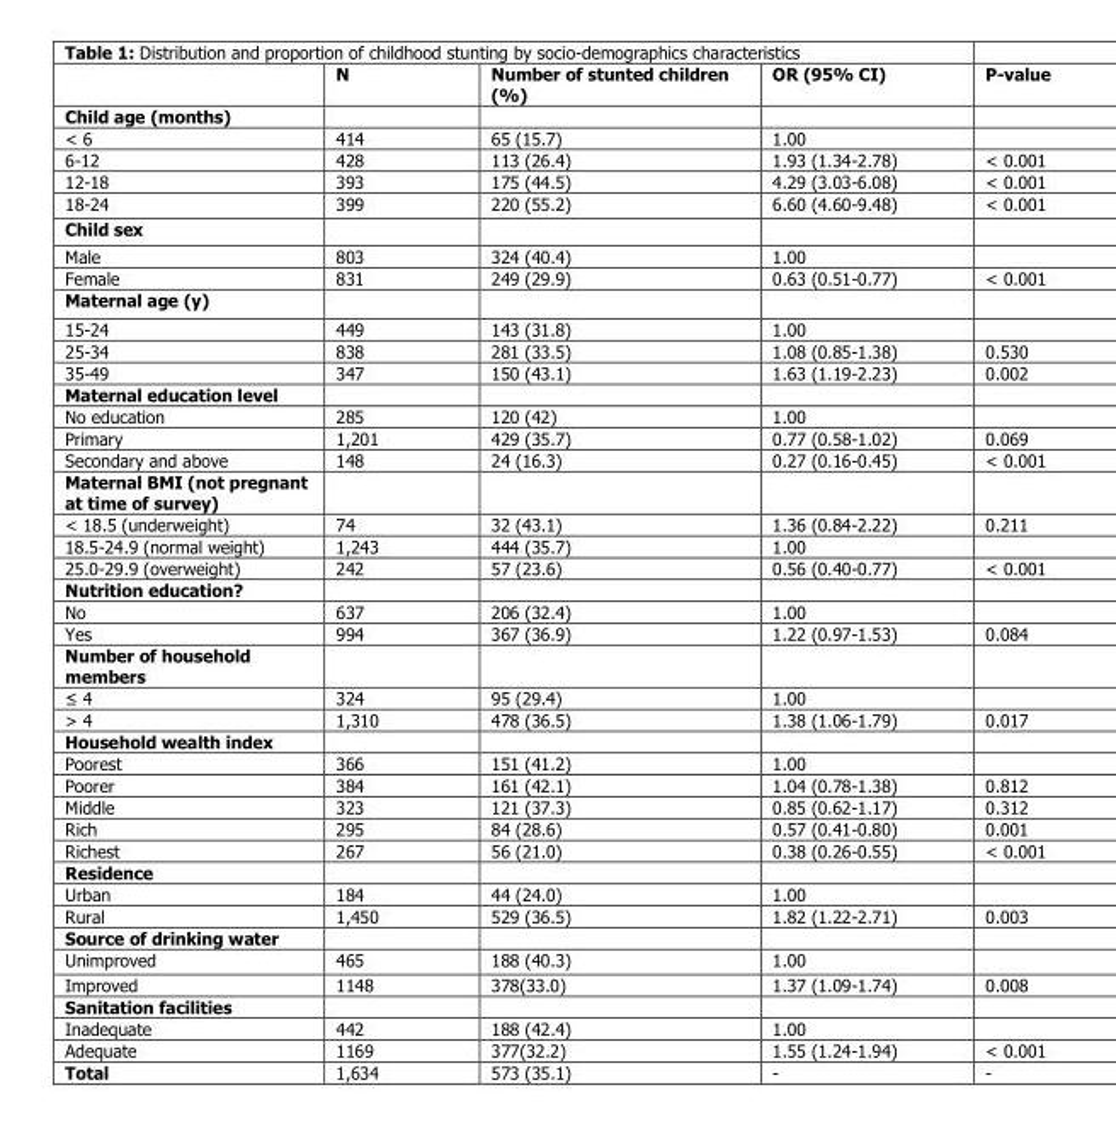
<table><thead><tr><td></td><td>N</td><td>Number of stunted children (%)</td><td>OR (95% CI)</td><td>P-value</td></tr></thead><tbody><tr><td colspan="5">Child age (months)</td></tr><tr><td>&lt; 6</td><td>414</td><td>65 (15.7)</td><td>1.00</td><td></td></tr><tr><td>6-12</td><td>428</td><td>113 (26.4)</td><td>1.93 (1.34-2.78)</td><td>&lt; 0.001</td></tr><tr><td>12-18</td><td>393</td><td>175 (44.5)</td><td>4.29 (3.03-6.08)</td><td>&lt; 0.001</td></tr><tr><td>18-24</td><td>399</td><td>220 (55.2)</td><td>6.60 (4.60-9.48)</td><td>&lt; 0.001</td></tr><tr><td colspan="5">Child sex</td></tr><tr><td>Male</td><td>803</td><td>324 (40.4)</td><td>1.00</td><td></td></tr><tr><td>Female</td><td>831</td><td>249 (29.9)</td><td>0.63 (0.51-0.77)</td><td>&lt; 0.001</td></tr><tr><td colspan="5">Maternal age (y)</td></tr><tr><td>15-24</td><td>449</td><td>143 (31.8)</td><td>1.00</td><td></td></tr><tr><td>25-34</td><td>838</td><td>281 (33.5)</td><td>1.08 (0.85-1.38)</td><td>0.530</td></tr><tr><td>35-49</td><td>347</td><td>150 (43.1)</td><td>1.63 (1.19-2.23)</td><td>0.002</td></tr><tr><td colspan="5">Maternal education level</td></tr><tr><td>No education</td><td>285</td><td>120 (42)</td><td>1.00</td><td></td></tr><tr><td>Primary</td><td>1,201</td><td>429 (35.7)</td><td>0.77 (0.58-1.02)</td><td>0.069</td></tr><tr><td>Secondary and above</td><td>148</td><td>24 (16.3)</td><td>0.27 (0.16-0.45)</td><td>&lt; 0.001</td></tr><tr><td colspan="5">Maternal BMI (not pregnant at time of survey)</td></tr><tr><td>&lt; 18.5 (underweight)</td><td>74</td><td>32 (43.1)</td><td>1.36 (0.84-2.22)</td><td>0.211</td></tr><tr><td>18.5-24.9 (normal weight)</td><td>1,243</td><td>444 (35.7)</td><td>1.00</td><td></td></tr><tr><td>25.0-29.9 (overweight)</td><td>242</td><td>57 (23.6)</td><td>0.56 (0.40-0.77)</td><td>&lt; 0.001</td></tr><tr><td colspan="5">Nutrition education?</td></tr><tr><td>No</td><td>637</td><td>206 (32.4)</td><td>1.00</td><td></td></tr><tr><td>Yes</td><td>994</td><td>367 (36.9)</td><td>1.22 (0.97-1.53)</td><td>0.084</td></tr><tr><td colspan="5">Number of household members</td></tr><tr><td>≤ 4</td><td>324</td><td>95 (29.4)</td><td>1.00</td><td></td></tr><tr><td>&gt; 4</td><td>1,310</td><td>478 (36.5)</td><td>1.38 (1.06-1.79)</td><td>0.017</td></tr><tr><td colspan="5">Household wealth index</td></tr><tr><td>Poorest</td><td>366</td><td>151 (41.2)</td><td>1.00</td><td></td></tr><tr><td>Poorer</td><td>384</td><td>161 (42.1)</td><td>1.04 (0.78-1.38)</td><td>0.812</td></tr><tr><td>Middle</td><td>323</td><td>121 (37.3)</td><td>0.85 (0.62-1.17)</td><td>0.312</td></tr><tr><td>Rich</td><td>295</td><td>84 (28.6)</td><td>0.57 (0.41-0.80)</td><td>0.001</td></tr><tr><td>Richest</td><td>267</td><td>56 (21.0)</td><td>0.38 (0.26-0.55)</td><td>&lt; 0.001</td></tr><tr><td colspan="5">Residence</td></tr><tr><td>Urban</td><td>184</td><td>44 (24.0)</td><td>1.00</td><td></td></tr><tr><td>Rural</td><td>1,450</td><td>529 (36.5)</td><td>1.82 (1.22-2.71)</td><td>0.003</td></tr><tr><td colspan="5">Source of drinking water</td></tr><tr><td>Unimproved</td><td>465</td><td>188 (40.3)</td><td>1.00</td><td></td></tr><tr><td>Improved</td><td>1148</td><td>378(33.0)</td><td>1.37 (1.09-1.74)</td><td>0.008</td></tr><tr><td colspan="5">Sanitation facilities</td></tr><tr><td>Inadequate</td><td>442</td><td>188 (42.4)</td><td>1.00</td><td></td></tr><tr><td>Adequate</td><td>1169</td><td>377(32.2)</td><td>1.55 (1.24-1.94)</td><td>&lt; 0.001</td></tr><tr><td>Total</td><td>1,634</td><td>573 (35.1)</td><td>-</td><td>-</td></tr></tbody></table>